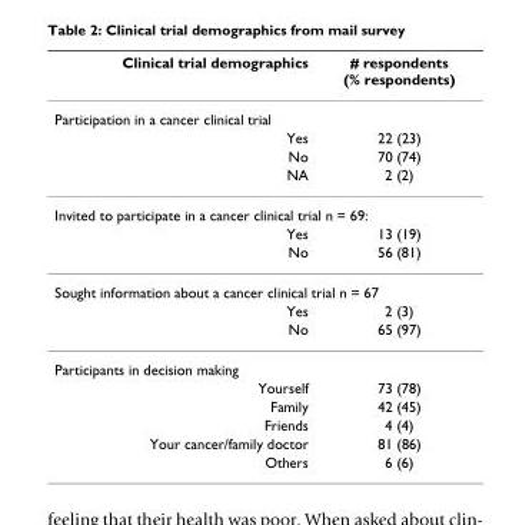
<table><thead><tr><td>Clinical trial demographics</td><td># respondents (% respondents)</td></tr></thead><tbody><tr><td colspan="2">Participation in a cancer clinical trial</td></tr><tr><td>Yes</td><td>22 (23)</td></tr><tr><td>No</td><td>70 (74)</td></tr><tr><td>NA</td><td>2 (2)</td></tr><tr><td colspan="2">Invited to participate in a cancer clinical trial n = 69:</td></tr><tr><td>Yes</td><td>13 (19)</td></tr><tr><td>No</td><td>56 (81)</td></tr><tr><td colspan="2">Sought information about a cancer clinical trial n = 67</td></tr><tr><td>Yes</td><td>2 (3)</td></tr><tr><td>No</td><td>65 (97)</td></tr><tr><td colspan="2">Participants in decision making</td></tr><tr><td>Yourself</td><td>73 (78)</td></tr><tr><td>Family</td><td>42 (45)</td></tr><tr><td>Friends</td><td>4 (4)</td></tr><tr><td>Your cancer/family doctor</td><td>81 (86)</td></tr><tr><td>Others</td><td>6 (6)</td></tr></tbody></table>